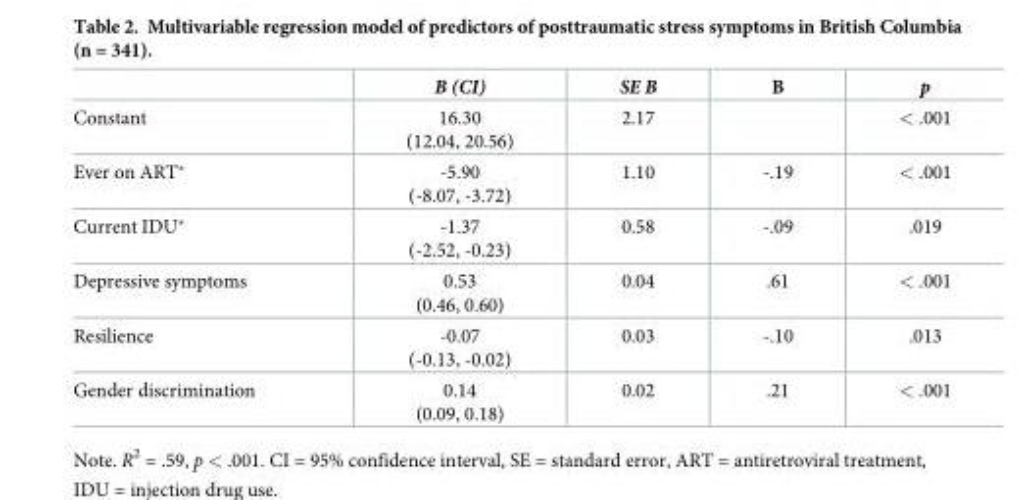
<table><thead><tr><td></td><td>B (CI)</td><td>SE B</td><td>B</td><td>p</td></tr></thead><tbody><tr><td>Constant</td><td>16.30 (12.04, 20.56)</td><td>2.17</td><td></td><td>&lt; .001</td></tr><tr><td>Ever on ART*</td><td>-5.90 (-8.07, -3.72)</td><td>1.10</td><td>-.19</td><td>&lt; .001</td></tr><tr><td>Current IDU*</td><td>-1.37 (-2.52, -0.23)</td><td>0.58</td><td>-.09</td><td>.019</td></tr><tr><td>Depressive symptoms</td><td>0.53 (0.46, 0.60)</td><td>0.04</td><td>.61</td><td>&lt; .001</td></tr><tr><td>Resilience</td><td>-0.07 (-0.13, -0.02)</td><td>0.03</td><td>-.10</td><td>.013</td></tr><tr><td>Gender discrimination</td><td>0.14 (0.09, 0.18)</td><td>0.02</td><td>.21</td><td>&lt; .001</td></tr></tbody></table>